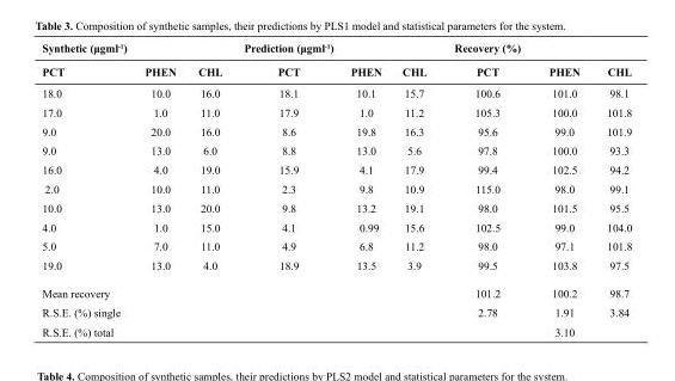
<table><thead><tr><td rowspan="2">Synthetic (μgml-1) PCT</td><td colspan="4">Prediction (μgml-1)</td><td colspan="4">Recovery (%)</td></tr><tr><td>PHEN</td><td>CHL</td><td>PCT</td><td>PHEN</td><td>CHL</td><td>PCT</td><td>PHEN</td><td>CHL</td></tr></thead><tbody><tr><td>18.0</td><td>10.0</td><td>16.0</td><td>18.1</td><td>10.1</td><td>15.7</td><td>100.6</td><td>101.0</td><td>98.1</td></tr><tr><td>17.0</td><td>1.0</td><td>11.0</td><td>17.9</td><td>1.0</td><td>11.2</td><td>105.3</td><td>100.0</td><td>101.8</td></tr><tr><td>9.0</td><td>20.0</td><td>16.0</td><td>8.6</td><td>19.8</td><td>16.3</td><td>95.6</td><td>99.0</td><td>101.9</td></tr><tr><td>9.0</td><td>13.0</td><td>6.0</td><td>8.8</td><td>13.0</td><td>5.6</td><td>97.8</td><td>100.0</td><td>93.3</td></tr><tr><td>16.0</td><td>4.0</td><td>19.0</td><td>15.9</td><td>4.1</td><td>17.9</td><td>99.4</td><td>102.5</td><td>94.2</td></tr><tr><td>2.0</td><td>10.0</td><td>11.0</td><td>2.3</td><td>9.8</td><td>10.9</td><td>115.0</td><td>98.0</td><td>99.1</td></tr><tr><td>10.0</td><td>13.0</td><td>20.0</td><td>9.8</td><td>13.2</td><td>19.1</td><td>98.0</td><td>101.5</td><td>95.5</td></tr><tr><td>4.0</td><td>1.0</td><td>15.0</td><td>4.1</td><td>0.99</td><td>15.6</td><td>102.5</td><td>99.0</td><td>104.0</td></tr><tr><td>5.0</td><td>7.0</td><td>11.0</td><td>4.9</td><td>6.8</td><td>11.2</td><td>98.0</td><td>97.1</td><td>101.8</td></tr><tr><td>19.0</td><td>13.0</td><td>4.0</td><td>18.9</td><td>13.5</td><td>3.9</td><td>99.5</td><td>103.8</td><td>97.5</td></tr><tr><td>Mean recovery</td><td></td><td></td><td></td><td></td><td></td><td>101.2</td><td>100.2</td><td>98.7</td></tr><tr><td>R.S.E. (%) single</td><td></td><td></td><td></td><td></td><td></td><td>2.78</td><td>1.91</td><td>3.84</td></tr><tr><td>R.S.E. (%) total</td><td></td><td></td><td></td><td></td><td></td><td></td><td>3.10</td><td></td></tr></tbody></table>